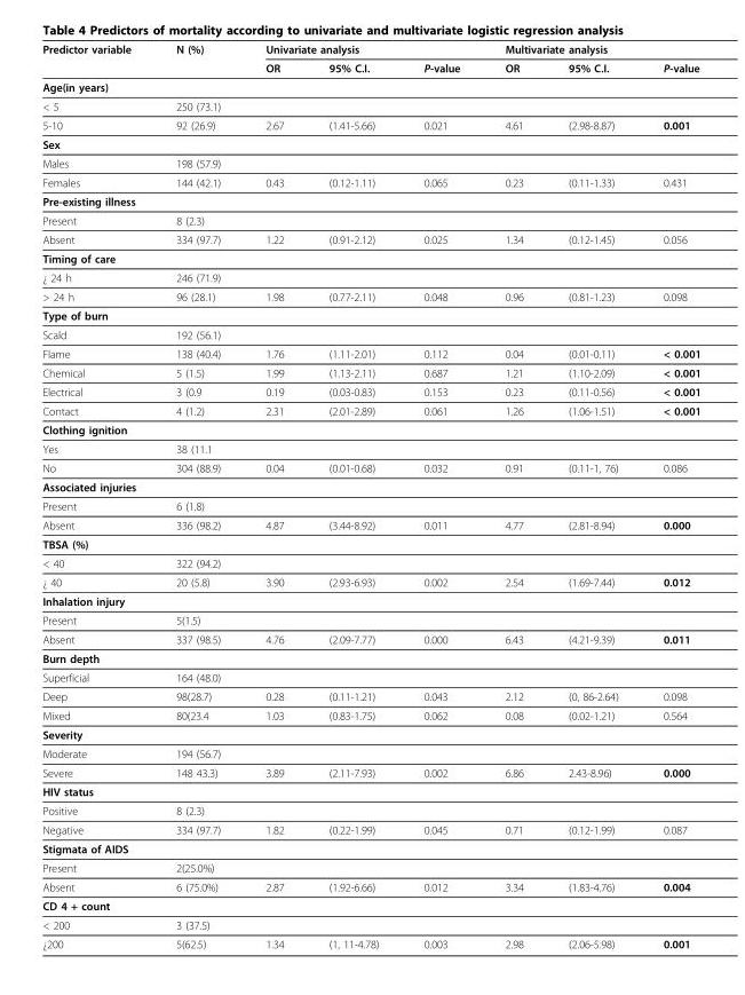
<table><thead><tr><td rowspan="2">Predictor variable</td><td rowspan="2">N (%)</td><td colspan="3">Univariate analysis</td><td colspan="3">Multivariate analysis</td></tr><tr><td>OR</td><td>95% C.I.</td><td>P-value</td><td>OR</td><td>95% C.I.</td><td>P-value</td></tr></thead><tbody><tr><td colspan="8">Age(in years)</td></tr><tr><td>&lt; 5</td><td>250 (73.1)</td><td></td><td></td><td></td><td></td><td></td><td></td></tr><tr><td>5-10</td><td>92 (26.9)</td><td>2.67</td><td>(1.41-5.66)</td><td>0.021</td><td>4.61</td><td>(2.98-8.87)</td><td>0.001</td></tr><tr><td colspan="8">Sex</td></tr><tr><td>Males</td><td>198 (57.9)</td><td></td><td></td><td></td><td></td><td></td><td></td></tr><tr><td>Females</td><td>144 (42.1)</td><td>0.43</td><td>(0.12-1.11)</td><td>0.065</td><td>0.23</td><td>(0.11-1.33)</td><td>0.431</td></tr><tr><td colspan="8">Pre-existing illness</td></tr><tr><td>Present</td><td>8 (2.3)</td><td></td><td></td><td></td><td></td><td></td><td></td></tr><tr><td>Absent</td><td>334 (97.7)</td><td>1.22</td><td>(0.91-2.12)</td><td>0.025</td><td>1.34</td><td>(0.12-1.45)</td><td>0.056</td></tr><tr><td colspan="8">Timing of care</td></tr><tr><td>¿ 24 h</td><td>246 (71.9)</td><td></td><td></td><td></td><td></td><td></td><td></td></tr><tr><td>&gt; 24 h</td><td>96 (28.1)</td><td>1.98</td><td>(0.77-2.11)</td><td>0.048</td><td>0.96</td><td>(0.81-1.23)</td><td>0.098</td></tr><tr><td colspan="8">Type of burn</td></tr><tr><td>Scald</td><td>192 (56.1)</td><td></td><td></td><td></td><td></td><td></td><td></td></tr><tr><td>Flame</td><td>138 (40.4)</td><td>1.76</td><td>(1.11-2.01)</td><td>0.112</td><td>0.04</td><td>(0.01-0.11)</td><td>&lt; 0.001</td></tr><tr><td>Chemical</td><td>5 (1.5)</td><td>1.99</td><td>(1.13-2.11)</td><td>0.687</td><td>1.21</td><td>(1.10-2.09)</td><td>&lt; 0.001</td></tr><tr><td>Electrical</td><td>3 (0.9</td><td>0.19</td><td>(0.03-0.83)</td><td>0.153</td><td>0.23</td><td>(0.11-0.56)</td><td>&lt; 0.001</td></tr><tr><td>Contact</td><td>4 (1.2)</td><td>2.31</td><td>(2.01-2.89)</td><td>0.061</td><td>1.26</td><td>(1.06-1.51)</td><td>&lt; 0.001</td></tr><tr><td colspan="8">Clothing ignition</td></tr><tr><td>Yes</td><td>38 (11.1</td><td></td><td></td><td></td><td></td><td></td><td></td></tr><tr><td>No</td><td>304 (88.9)</td><td>0.04</td><td>(0.01-0.68)</td><td>0.032</td><td>0.91</td><td>(0.11-1, 76)</td><td>0.086</td></tr><tr><td colspan="8">Associated injuries</td></tr><tr><td>Present</td><td>6 (1.8)</td><td></td><td></td><td></td><td></td><td></td><td></td></tr><tr><td>Absent</td><td>336 (98.2)</td><td>4.87</td><td>(3.44-8.92)</td><td>0.011</td><td>4.77</td><td>(2.81-8.94)</td><td>0.000</td></tr><tr><td colspan="8">TBSA (%)</td></tr><tr><td>&lt; 40</td><td>322 (94.2)</td><td></td><td></td><td></td><td></td><td></td><td></td></tr><tr><td>¿ 40</td><td>20 (5.8)</td><td>3.90</td><td>(2.93-6.93)</td><td>0.002</td><td>2.54</td><td>(1.69-7.44)</td><td>0.012</td></tr><tr><td colspan="8">Inhalation injury</td></tr><tr><td>Present</td><td>5(1.5)</td><td></td><td></td><td></td><td></td><td></td><td></td></tr><tr><td>Absent</td><td>337 (98.5)</td><td>4.76</td><td>(2.09-7.77)</td><td>0.000</td><td>6.43</td><td>(4.21-9.39)</td><td>0.011</td></tr><tr><td colspan="8">Burn depth</td></tr><tr><td>Superficial</td><td>164 (48.0)</td><td></td><td></td><td></td><td></td><td></td><td></td></tr><tr><td>Deep</td><td>98(28.7)</td><td>0.28</td><td>(0.11-1.21)</td><td>0.043</td><td>2.12</td><td>(0, 86-2.64)</td><td>0.098</td></tr><tr><td>Mixed</td><td>80(23.4</td><td>1.03</td><td>(0.83-1.75)</td><td>0.062</td><td>0.08</td><td>(0.02-1.21)</td><td>0.564</td></tr><tr><td colspan="8">Severity</td></tr><tr><td>Moderate</td><td>194 (56.7)</td><td></td><td></td><td></td><td></td><td></td><td></td></tr><tr><td>Severe</td><td>148 43.3)</td><td>3.89</td><td>(2.11-7.93)</td><td>0.002</td><td>6.86</td><td>2.43-8.96)</td><td>0.000</td></tr><tr><td colspan="8">HIV status</td></tr><tr><td>Positive</td><td>8 (2.3)</td><td></td><td></td><td></td><td></td><td></td><td></td></tr><tr><td>Negative</td><td>334 (97.7)</td><td>1.82</td><td>(0.22-1.99)</td><td>0.045</td><td>0.71</td><td>(0.12-1.99)</td><td>0.087</td></tr><tr><td colspan="8">Stigmata of AIDS</td></tr><tr><td>Present</td><td>2(25.0%)</td><td></td><td></td><td></td><td></td><td></td><td></td></tr><tr><td>Absent</td><td>6 (75.0%)</td><td>2.87</td><td>(1.92-6.66)</td><td>0.012</td><td>3.34</td><td>(1.83-4.76)</td><td>0.004</td></tr><tr><td colspan="8">CD 4 + count</td></tr><tr><td>&lt; 200</td><td>3 (37.5)</td><td></td><td></td><td></td><td></td><td></td><td></td></tr><tr><td>¿200</td><td>5(62.5)</td><td>1.34</td><td>(1, 11-4.78)</td><td>0.003</td><td>2.98</td><td>(2.06-5.98)</td><td>0.001</td></tr></tbody></table>